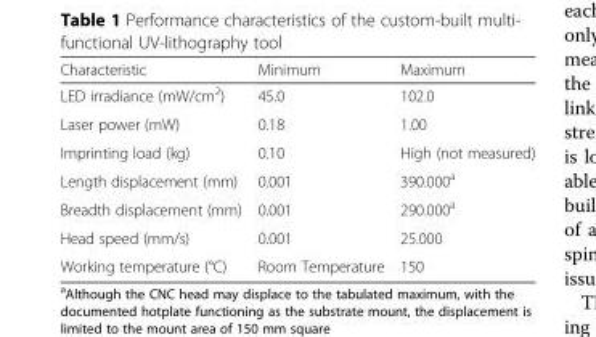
<table><thead><tr><td>Characteristic</td><td>Minimum</td><td>Maximum</td></tr></thead><tbody><tr><td>LED irradiance (mW/cm<sup>2</sup>)</td><td>45.0</td><td>102.0</td></tr><tr><td>Laser power (mW)</td><td>0.18</td><td>1.00</td></tr><tr><td>Imprinting load (kg)</td><td>0.10</td><td>High (not measured)</td></tr><tr><td>Length displacement (mm)</td><td>0.001</td><td>390.000<sup>a</sup></td></tr><tr><td>Breadth displacement (mm)</td><td>0.001</td><td>290.000<sup>a</sup></td></tr><tr><td>Head speed (mm/s)</td><td>0.001</td><td>25.000</td></tr><tr><td>Working temperature (°C)</td><td>Room Temperature</td><td>150</td></tr></tbody></table>